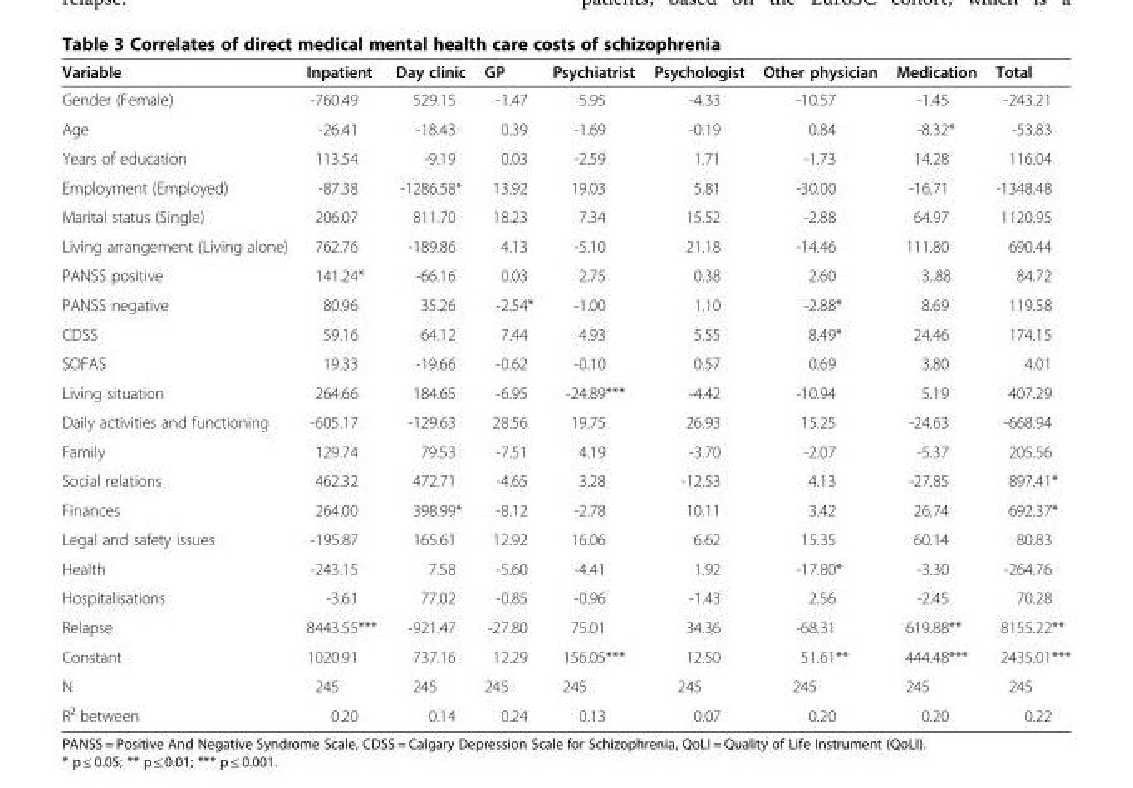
<table><thead><tr><td>Variable</td><td>Inpatient</td><td>Day clinic</td><td>GP</td><td>Psychiatrist</td><td>Psychologist</td><td>Other physician</td><td>Medication</td><td>Total</td></tr></thead><tbody><tr><td>Gender (Female)</td><td>-760.49</td><td>529.15</td><td>-1.47</td><td>5.95</td><td>-4.33</td><td>-10.57</td><td>-1.45</td><td>-243.21</td></tr><tr><td>Age</td><td>-26.41</td><td>-18.43</td><td>0.39</td><td>-1.69</td><td>-0.19</td><td>0.84</td><td>-8.32*</td><td>-53.83</td></tr><tr><td>Years of education</td><td>113.54</td><td>-9.19</td><td>0.03</td><td>-2.59</td><td>1.71</td><td>-1.73</td><td>14.28</td><td>116.04</td></tr><tr><td>Employment (Employed)</td><td>-87.38</td><td>-1286.58*</td><td>13.92</td><td>19.03</td><td>5.81</td><td>-30.00</td><td>-16.71</td><td>-1348.48</td></tr><tr><td>Marital status (Single)</td><td>206.07</td><td>811.70</td><td>18.23</td><td>7.34</td><td>15.52</td><td>-2.88</td><td>64.97</td><td>1120.95</td></tr><tr><td>Living arrangement (Living alone)</td><td>762.76</td><td>-189.86</td><td>4.13</td><td>-5.10</td><td>21.18</td><td>-14.46</td><td>111.80</td><td>690.44</td></tr><tr><td>PANSS positive</td><td>141.24*</td><td>-66.16</td><td>0.03</td><td>2.75</td><td>0.38</td><td>2.60</td><td>3..88</td><td>84.72</td></tr><tr><td>PANSS negative</td><td>80.96</td><td>35.26</td><td>-2.54*</td><td>-1.00</td><td>1.10</td><td>-2.88*</td><td>8.69</td><td>119.58</td></tr><tr><td>CDSS</td><td>59.16</td><td>64.12</td><td>7.44</td><td>4.93</td><td>5.55</td><td>8.49*</td><td>24.46</td><td>174.15</td></tr><tr><td>SOFAS</td><td>19.33</td><td>-19.66</td><td>-0.62</td><td>-0.10</td><td>0.57</td><td>0.69</td><td>3.80</td><td>4.01</td></tr><tr><td>Living situation</td><td>264.66</td><td>184.65</td><td>-6.95</td><td>-24.89***</td><td>-4.42</td><td>-10.94</td><td>5.19</td><td>407.29</td></tr><tr><td>Daily activities and functioning</td><td>-605.17</td><td>-129.63</td><td>28.56</td><td>19.75</td><td>26.93</td><td>15.25</td><td>-24.63</td><td>-668.94</td></tr><tr><td>Family</td><td>129.74</td><td>79.53</td><td>-7.51</td><td>4.19</td><td>-3.70</td><td>-2.07</td><td>-5.37</td><td>205.56</td></tr><tr><td>Social relations</td><td>462.32</td><td>472.71</td><td>-4.65</td><td>3.28</td><td>-12.53</td><td>4.13</td><td>-27.85</td><td>897.41*</td></tr><tr><td>Finances</td><td>264.00</td><td>398.99*</td><td>-8.12</td><td>-2.78</td><td>10.11</td><td>3.42</td><td>26.74</td><td>692.37*</td></tr><tr><td>Legal and safety issues</td><td>-195.87</td><td>165.61</td><td>12.92</td><td>16.06</td><td>6.62</td><td>15.35</td><td>60.14</td><td>80.83</td></tr><tr><td>Health</td><td>-243.15</td><td>7.58</td><td>-5.60</td><td>-4.41</td><td>1.92</td><td>-17.80*</td><td>-3.30</td><td>-264.76</td></tr><tr><td>Hospitalisations</td><td>-3.61</td><td>77.02</td><td>-0.85</td><td>-0.96</td><td>-1.43</td><td>2.56</td><td>-2.45</td><td>70.28</td></tr><tr><td>Relapse</td><td>8443.55***</td><td>-921.47</td><td>-27.80</td><td>75.01</td><td>34.36</td><td>-68.31</td><td>619.88**</td><td>8155.22**</td></tr><tr><td>Constant</td><td>1020.91</td><td>737.16</td><td>12.29</td><td>156.05***</td><td>12.50</td><td>51.61**</td><td>444.48***</td><td>2435.01***</td></tr><tr><td>N</td><td>245</td><td>245</td><td>245</td><td>245</td><td>245</td><td>245</td><td>245</td><td>245</td></tr><tr><td>R² between</td><td>0.20</td><td>0.14</td><td>0.24</td><td>0.13</td><td>0.07</td><td>0.20</td><td>0.20</td><td>0.22</td></tr></tbody></table>